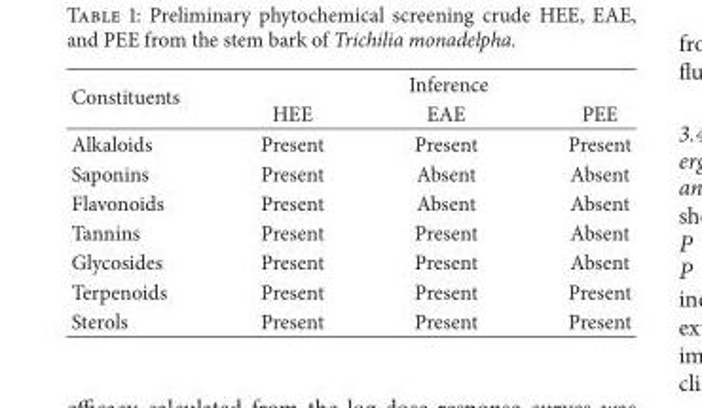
<table><thead><tr><td rowspan="2">Constituents</td><td colspan="3">Inference</td></tr><tr><td>HEE</td><td>EAE</td><td>PEE</td></tr></thead><tbody><tr><td>Alkaloids</td><td>Present</td><td>Present</td><td>Present</td></tr><tr><td>Saponins</td><td>Present</td><td>Absent</td><td>Absent</td></tr><tr><td>Flavonoids</td><td>Present</td><td>Absent</td><td>Absent</td></tr><tr><td>Tannins</td><td>Present</td><td>Present</td><td>Absent</td></tr><tr><td>Glycosides</td><td>Present</td><td>Present</td><td>Absent</td></tr><tr><td>Terpenoids</td><td>Present</td><td>Present</td><td>Present</td></tr><tr><td>Sterols</td><td>Present</td><td>Present</td><td>Present</td></tr></tbody></table>